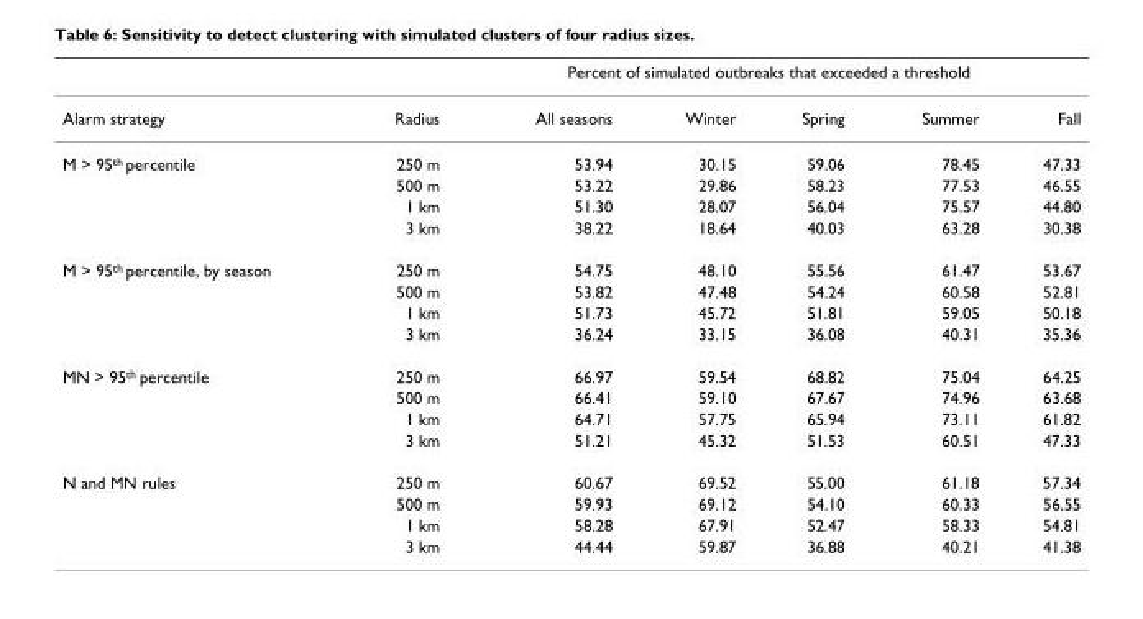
<table><thead><tr><td rowspan="2">Alarm strategy</td><td rowspan="2">Radius</td><td colspan="5">Percent of simulated outbreaks that exceeded a threshold</td></tr><tr><td>All seasons</td><td>Winter</td><td>Spring</td><td>Summer</td><td>Fall</td></tr></thead><tbody><tr><td rowspan="4">M &gt; 95<sup>th</sup> percentile</td><td>250 m</td><td>53.94</td><td>30.15</td><td>59.06</td><td>78.45</td><td>47.33</td></tr><tr><td>500 m</td><td>53.22</td><td>29.86</td><td>58.23</td><td>77.53</td><td>46.55</td></tr><tr><td>1 km</td><td>51.30</td><td>28.07</td><td>56.04</td><td>75.57</td><td>44.80</td></tr><tr><td>3 km</td><td>38.22</td><td>18.64</td><td>40.03</td><td>63.28</td><td>30.38</td></tr><tr><td rowspan="4">M &gt; 95<sup>th</sup> percentile, by season</td><td>250 m</td><td>54.75</td><td>48.10</td><td>55.56</td><td>61.47</td><td>53.67</td></tr><tr><td>500 m</td><td>53.82</td><td>47.48</td><td>54.24</td><td>60.58</td><td>52.81</td></tr><tr><td>1 km</td><td>51.73</td><td>45.72</td><td>51.81</td><td>59.05</td><td>50.18</td></tr><tr><td>3 km</td><td>36.24</td><td>33.15</td><td>36.08</td><td>40.31</td><td>35.36</td></tr><tr><td rowspan="4">MN &gt; 95<sup>th</sup> percentile</td><td>250 m</td><td>66.97</td><td>59.54</td><td>68.82</td><td>75.04</td><td>64.25</td></tr><tr><td>500 m</td><td>66.41</td><td>59.10</td><td>67.67</td><td>74.96</td><td>63.68</td></tr><tr><td>1 km</td><td>64.71</td><td>57.75</td><td>65.94</td><td>73.11</td><td>61.82</td></tr><tr><td>3 km</td><td>51.21</td><td>45.32</td><td>51.53</td><td>60.51</td><td>47.33</td></tr><tr><td rowspan="4">N and MN rules</td><td>250 m</td><td>60.67</td><td>69.52</td><td>55.00</td><td>61.18</td><td>57.34</td></tr><tr><td>500 m</td><td>59.93</td><td>69.12</td><td>54.10</td><td>60.33</td><td>56.55</td></tr><tr><td>1 km</td><td>58.28</td><td>67.91</td><td>52.47</td><td>58.33</td><td>54.81</td></tr><tr><td>3 km</td><td>44.44</td><td>59.87</td><td>36.88</td><td>40.21</td><td>41.38</td></tr></tbody></table>